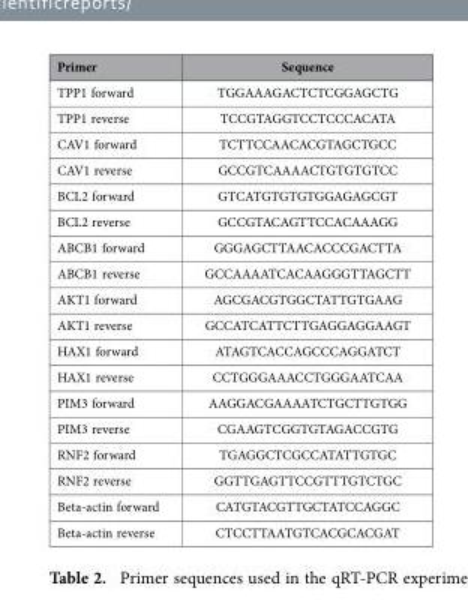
<table><thead><tr><td>Primer</td><td>Sequence</td></tr></thead><tbody><tr><td>TPP1 forward</td><td>TGGAAAGACTCTCGGAGCTG</td></tr><tr><td>TPP1 reverse</td><td>TCCGTAGGTCCTCCCACATA</td></tr><tr><td>CAV1 forward</td><td>TCTTCCAACACGTAGCTGCC</td></tr><tr><td>CAV1 reverse</td><td>GCCGTCAAAACTGTGTGTCC</td></tr><tr><td>BCL2 forward</td><td>GTCATGTGTGTGGAGAGCGT</td></tr><tr><td>BCL2 reverse</td><td>GCCGTACAGTTCCACAAAGG</td></tr><tr><td>ABCB1 forward</td><td>GGGAGCTTAACACCCGACTTA</td></tr><tr><td>ABCB1 reverse</td><td>GCCAAAATCACAAGGGTTAGCTT</td></tr><tr><td>AKT1 forward</td><td>AGCGACGTGGCTATTGTGAAG</td></tr><tr><td>AKT1 reverse</td><td>GCCATCATTCTTGAGGAGGAAGT</td></tr><tr><td>HAX1 forward</td><td>ATAGTCACCAGCCCAGGATCT</td></tr><tr><td>HAX1 reverse</td><td>CCTGGGAAACCTGGGAATCAA</td></tr><tr><td>PIM3 forward</td><td>AAGGACGAAAATCTGCTTGTGG</td></tr><tr><td>PIM3 reverse</td><td>CGAAGTCGGTGTAGACCGTG</td></tr><tr><td>RNF2 forward</td><td>TGAGGCTCGCCATATTGTGC</td></tr><tr><td>RNF2 reverse</td><td>GGTTGAGTTCCGTTTGTCTGC</td></tr><tr><td>Beta-actin forward</td><td>CATGTACGTTGCTATCCAGGC</td></tr><tr><td>Beta-actin reverse</td><td>CTCCTTAATGTCACGCACGAT</td></tr></tbody></table>